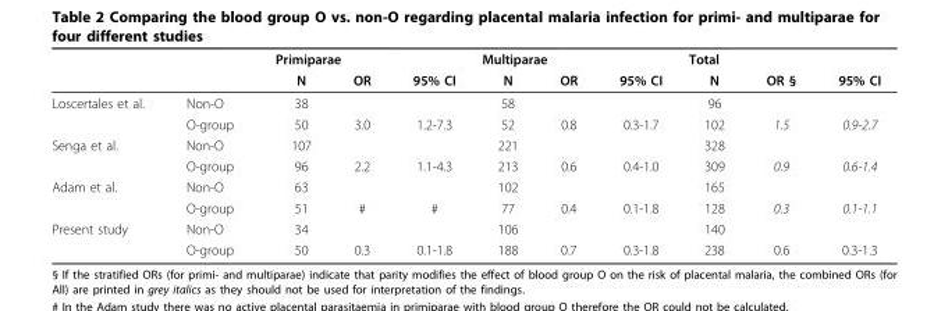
<table><thead><tr><td rowspan="2"></td><td rowspan="2"></td><td colspan="3">Primiparae</td><td colspan="3">Multiparae</td><td colspan="3">Total</td></tr><tr><td>N</td><td>OR</td><td>95% CI</td><td>N</td><td>OR</td><td>95% CI</td><td>N</td><td>OR §</td><td>95% CI</td></tr></thead><tbody><tr><td rowspan="2">Loscertales et al.</td><td>Non-O</td><td>38</td><td></td><td></td><td>58</td><td></td><td></td><td>96</td><td></td><td></td></tr><tr><td>O-group</td><td>50</td><td>3.0</td><td>1.2-7.3</td><td>52</td><td>0.8</td><td>0.3-1.7</td><td>102</td><td>1.5</td><td>0.9-2.7</td></tr><tr><td rowspan="2">Senga et al.</td><td>Non-O</td><td>107</td><td></td><td></td><td>221</td><td></td><td></td><td>328</td><td></td><td></td></tr><tr><td>O-group</td><td>96</td><td>2.2</td><td>1.1-4.3</td><td>213</td><td>0.6</td><td>0.4-1.0</td><td>309</td><td>0.9</td><td>0.6-1.4</td></tr><tr><td rowspan="2">Adam et al.</td><td>Non-O</td><td>63</td><td></td><td></td><td>102</td><td></td><td></td><td>165</td><td></td><td></td></tr><tr><td>O-group</td><td>51</td><td>#</td><td>#</td><td>77</td><td>0.4</td><td>0.1-1.8</td><td>128</td><td>0.3</td><td>0.1-1.1</td></tr><tr><td rowspan="2">Present study</td><td>Non-O</td><td>34</td><td></td><td></td><td>106</td><td></td><td></td><td>140</td><td></td><td></td></tr><tr><td>O-group</td><td>50</td><td>0.3</td><td>0.1-1.8</td><td>188</td><td>0.7</td><td>0.3-1.8</td><td>238</td><td>0.6</td><td>0.3-1.3</td></tr></tbody></table>